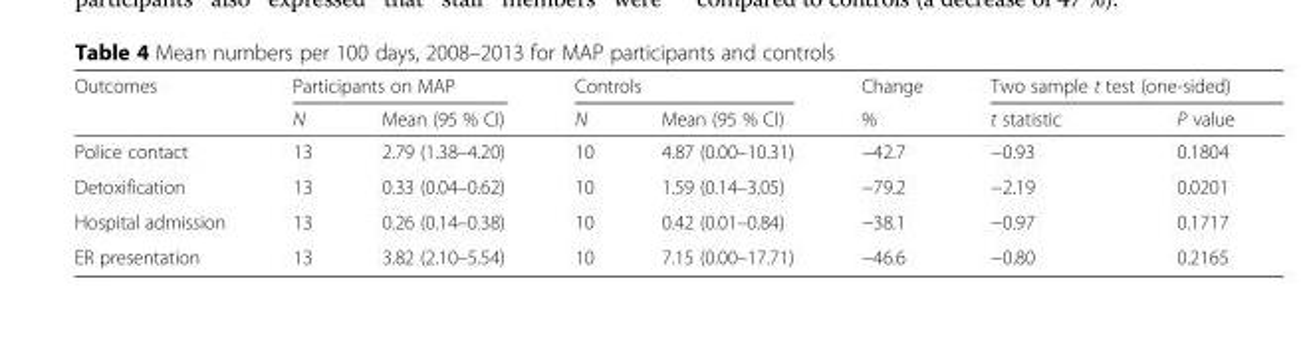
<table><thead><tr><td rowspan="2">Outcomes</td><td colspan="2">Participants on MAP</td><td colspan="2">Controls</td><td rowspan="2">Change %</td><td colspan="2">Two sample t test (one-sided)</td></tr><tr><td>N</td><td>Mean (95 % CI)</td><td>N</td><td>Mean (95 % CI)</td><td>t statistic</td><td>P value</td></tr></thead><tbody><tr><td>Police contact</td><td>13</td><td>2.79 (1.38–4.20)</td><td>10</td><td>4.87 (0.00–10.31)</td><td>−42.7</td><td>−0.93</td><td>0.1804</td></tr><tr><td>Detoxification</td><td>13</td><td>0.33 (0.04–0.62)</td><td>10</td><td>1.59 (0.14–3.05)</td><td>−79.2</td><td>−2.19</td><td>0.0201</td></tr><tr><td>Hospital admission</td><td>13</td><td>0.26 (0.14–0.38)</td><td>10</td><td>0.42 (0.01–0.84)</td><td>−38.1</td><td>−0.97</td><td>0.1717</td></tr><tr><td>ER presentation</td><td>13</td><td>3.82 (2.10–5.54)</td><td>10</td><td>7.15 (0.00–17.71)</td><td>−46.6</td><td>−0.80</td><td>0.2165</td></tr></tbody></table>